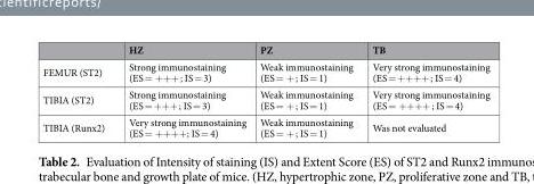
<table><thead><tr><td></td><td>HZ</td><td>PZ</td><td>TB</td></tr></thead><tbody><tr><td>FEMUR (ST2)</td><td>Strong immunostaining (ES = +++ ; IS = 3)</td><td>Weak immunostaining (ES = + ; IS = 1)</td><td>Very strong immunostaining (ES = ++++ ; IS = 4)</td></tr><tr><td>TIBIA (ST2)</td><td>Strong immunostaining (ES = +++ ; IS = 3)</td><td>Weak immunostaining (ES = + ; IS = 1)</td><td>Very strong immunostaining (ES = ++++ ; IS = 4)</td></tr><tr><td>TIBIA (Runx2)</td><td>Very strong immunostaining (ES = ++++; IS = 4)</td><td>Weak immunostaining (ES = + ; IS = 1)</td><td>Was not evaluated</td></tr></tbody></table>